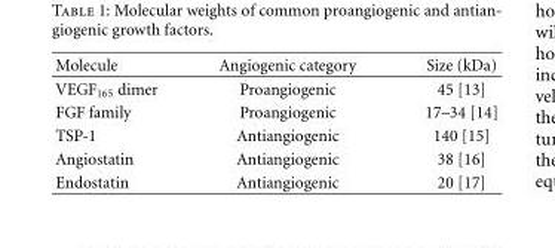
<table><thead><tr><td>Molecule</td><td>Angiogenic category</td><td>Size (kDa)</td></tr></thead><tbody><tr><td>VEGF<sub>165</sub> dimer</td><td>Proangiogenic</td><td>45 [13]</td></tr><tr><td>FGF family</td><td>Proangiogenic</td><td>17–34 [14]</td></tr><tr><td>TSP-1</td><td>Antiangiogenic</td><td>140 [15]</td></tr><tr><td>Angiostatin</td><td>Antiangiogenic</td><td>38 [16]</td></tr><tr><td>Endostatin</td><td>Antiangiogenic</td><td>20 [17]</td></tr></tbody></table>